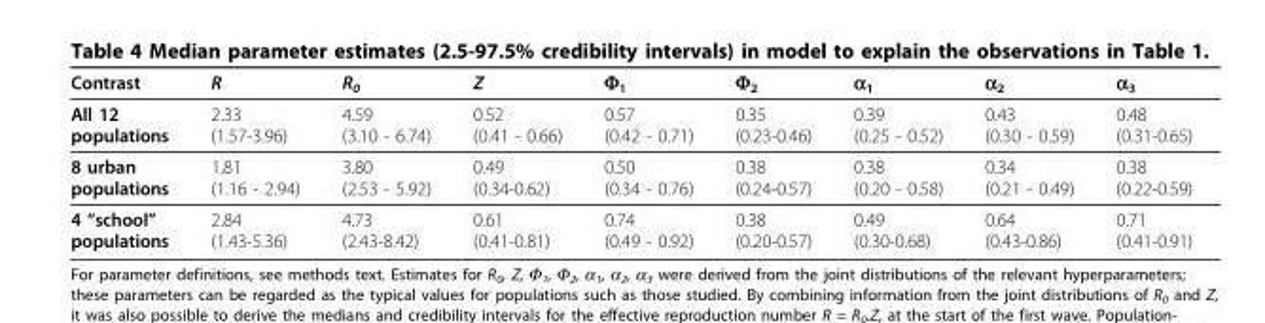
<table><thead><tr><td>Contrast</td><td>R</td><td>R<sub>0</sub></td><td>Z</td><td>Φ<sub>1</sub></td><td>Φ<sub>2</sub></td><td>α<sub>1</sub></td><td>α<sub>2</sub></td><td>α<sub>3</sub></td></tr></thead><tbody><tr><td>All 12 populations</td><td>2.33 (1.57-3.96)</td><td>4.59 (3.10 - 6.74)</td><td>0.52 (0.41 - 0.66)</td><td>0.57 (0.42 - 0.71)</td><td>0.35 (0.23-0.46)</td><td>0.39 (0.25 - 0.52)</td><td>0.43 (0.30 - 0.59)</td><td>0.48 (0.31-0.65)</td></tr><tr><td>8 urban populations</td><td>1.81 (1.16 - 2.94)</td><td>3.80 (2.53 - 5.92)</td><td>0.49 (0.34-0.62)</td><td>0.50 (0.34 - 0.76)</td><td>0.38 (0.24-0.57)</td><td>0.38 (0.20 - 0.58)</td><td>0.34 (0.21 - 0.49)</td><td>0.38 (0.22-0.59)</td></tr><tr><td>4 “school” populations</td><td>2.84 (1.43-5.36)</td><td>4.73 (2.43-8.42)</td><td>0.61 (0.41-0.81)</td><td>0.74 (0.49 - 0.92)</td><td>0.38 (0.20-0.57)</td><td>0.49 (0.30-0.68)</td><td>0.64 (0.43-0.86)</td><td>0.71 (0.41-0.91)</td></tr></tbody></table>